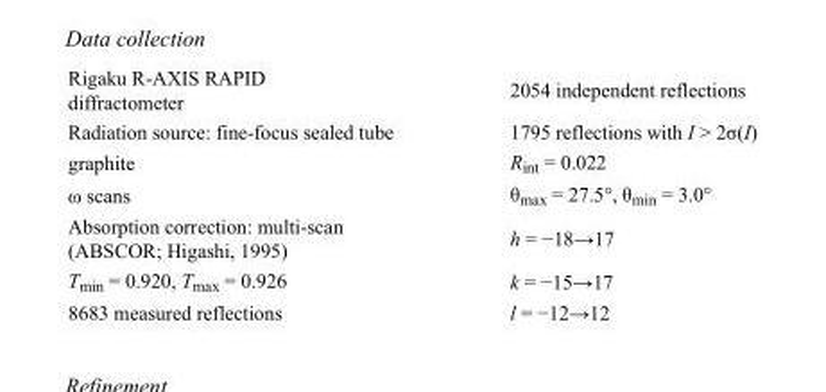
<table><tbody><tr><td>Rigaku R-AXIS RAPID diffractometer</td><td>2054 independent reflections</td></tr><tr><td>Radiation source: fine-focus sealed tube</td><td>1795 reflections with I &gt; 2σ(I)</td></tr><tr><td>graphite</td><td>R<sub>int</sub> = 0.022</td></tr><tr><td>ω scans</td><td>θ<sub>max</sub> = 27.5°, θ<sub>min</sub> = 3.0°</td></tr><tr><td>Absorption correction: multi-scan (ABSCOR; Higashi, 1995)</td><td>h = −18→17</td></tr><tr><td>T<sub>min</sub> = 0.920, T<sub>max</sub> = 0.926</td><td>k = −15→17</td></tr><tr><td>8683 measured reflections</td><td>l = −12→12</td></tr></tbody></table>